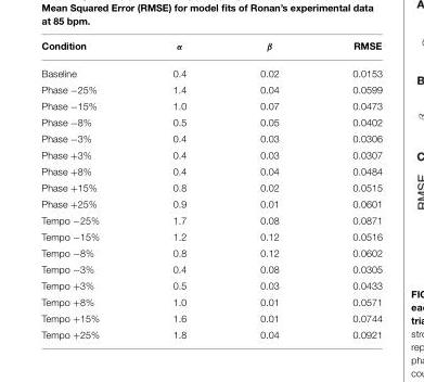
<table><thead><tr><td>Condition</td><td>α</td><td>β</td><td>RMSE</td></tr></thead><tbody><tr><td>Baseline</td><td>0.4</td><td>0.02</td><td>0.0153</td></tr><tr><td>Phase −25%</td><td>1.4</td><td>0.04</td><td>0.0599</td></tr><tr><td>Phase −15%</td><td>1.0</td><td>0.07</td><td>0.0473</td></tr><tr><td>Phase −8%</td><td>0.5</td><td>0.05</td><td>0.0402</td></tr><tr><td>Phase −3%</td><td>0.4</td><td>0.03</td><td>0.0306</td></tr><tr><td>Phase +3%</td><td>0.4</td><td>0.03</td><td>0.0307</td></tr><tr><td>Phase +8%</td><td>0.4</td><td>0.04</td><td>0.0484</td></tr><tr><td>Phase +15%</td><td>0.8</td><td>0.02</td><td>0.0515</td></tr><tr><td>Phase +25%</td><td>0.9</td><td>0.01</td><td>0.0601</td></tr><tr><td>Tempo −25%</td><td>1.7</td><td>0.08</td><td>0.0871</td></tr><tr><td>Tempo −15%</td><td>1.2</td><td>0.12</td><td>0.0516</td></tr><tr><td>Tempo −8%</td><td>0.8</td><td>0.12</td><td>0.0602</td></tr><tr><td>Tempo −3%</td><td>0.4</td><td>0.08</td><td>0.0305</td></tr><tr><td>Tempo +3%</td><td>0.5</td><td>0.03</td><td>0.0433</td></tr><tr><td>Tempo +8%</td><td>1.0</td><td>0.01</td><td>0.0571</td></tr><tr><td>Tempo +15%</td><td>1.6</td><td>0.01</td><td>0.0744</td></tr><tr><td>Tempo +25%</td><td>1.8</td><td>0.04</td><td>0.0921</td></tr></tbody></table>